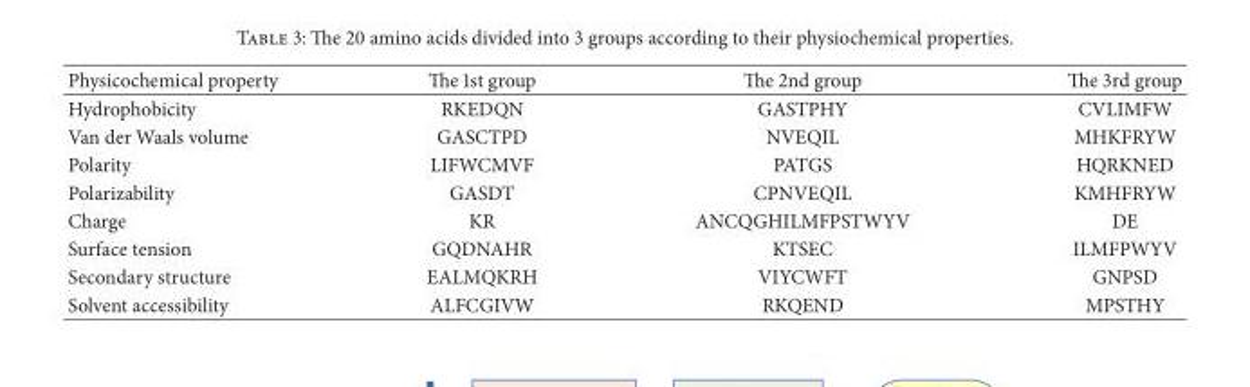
<table><thead><tr><td>Physicochemical property</td><td>The 1st group</td><td>The 2nd group</td><td>The 3rd group</td></tr></thead><tbody><tr><td>Hydrophobicity</td><td>RKEDQN</td><td>GASTPHY</td><td>CVLIMFW</td></tr><tr><td>Van der Waals volume</td><td>GASCTPD</td><td>NVEQIL</td><td>MHKFRYW</td></tr><tr><td>Polarity</td><td>LIFWCMVF</td><td>PATGS</td><td>HQRKNED</td></tr><tr><td>Polarizability</td><td>GASDT</td><td>CPNVEQIL</td><td>KMHFRYW</td></tr><tr><td>Charge</td><td>KR</td><td>ANCQGHILMFPSTWYV</td><td>DE</td></tr><tr><td>Surface tension</td><td>GQDNAHR</td><td>KTSEC</td><td>ILMFPWYV</td></tr><tr><td>Secondary structure</td><td>EALMQKRH</td><td>VIYCWFT</td><td>GNPSD</td></tr><tr><td>Solvent accessibility</td><td>ALFCGIVW</td><td>RKQEND</td><td>MPSTHY</td></tr></tbody></table>